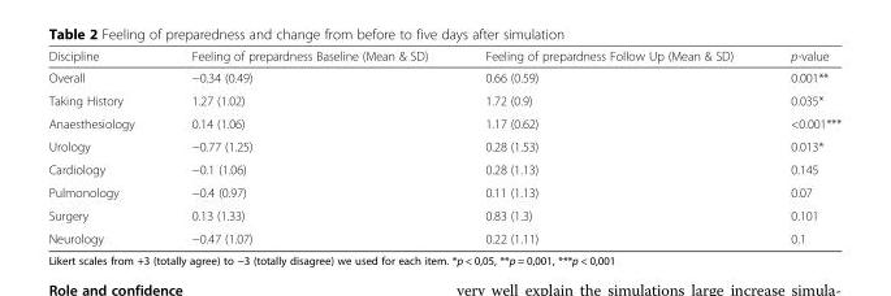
<table><thead><tr><td>Discipline</td><td>Feeling of prepardness Baseline (Mean &amp; SD)</td><td>Feeling of prepardness Follow Up (Mean &amp; SD)</td><td>p-value</td></tr></thead><tbody><tr><td>Overall</td><td>−0.34 (0.49)</td><td>0.66 (0.59)</td><td>0.001**</td></tr><tr><td>Taking History</td><td>1.27 (1.02)</td><td>1.72 (0.9)</td><td>0.035*</td></tr><tr><td>Anaesthesiology</td><td>0.14 (1.06)</td><td>1.17 (0.62)</td><td>&lt;0.001***</td></tr><tr><td>Urology</td><td>−0.77 (1.25)</td><td>0.28 (1.53)</td><td>0.013*</td></tr><tr><td>Cardiology</td><td>−0.1 (1.06)</td><td>0.28 (1.13)</td><td>0.145</td></tr><tr><td>Pulmonology</td><td>−0.4 (0.97)</td><td>0.11 (1.13)</td><td>0.07</td></tr><tr><td>Surgery</td><td>0.13 (1.33)</td><td>0.83 (1.3)</td><td>0.101</td></tr><tr><td>Neurology</td><td>−0.47 (1.07)</td><td>0.22 (1.11)</td><td>0.1</td></tr></tbody></table>